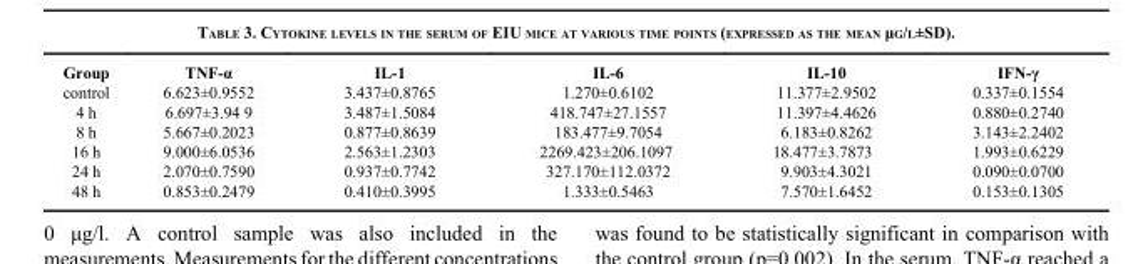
<table><thead><tr><td>Group</td><td>TNF-α</td><td>IL-1</td><td>IL-6</td><td>IL-10</td><td>IFN-γ</td></tr></thead><tbody><tr><td>control</td><td>6.623±0.9552</td><td>3.437±0.8765</td><td>1.270±0.6102</td><td>11.377±2.9502</td><td>0.337±0.1554</td></tr><tr><td>4 h</td><td>6.697±3.94 9</td><td>3.487±1.5084</td><td>418.747±27.1557</td><td>11.397±4.4626</td><td>0.880±0.2740</td></tr><tr><td>8 h</td><td>5.667±0.2023</td><td>0.877±0.8639</td><td>183.477±9.7054</td><td>6.183±0.8262</td><td>3.143±2.2402</td></tr><tr><td>16 h</td><td>9.000±6.0536</td><td>2.563±1.2303</td><td>2269.423±206.1097</td><td>18.477±3.7873</td><td>1.993±0.6229</td></tr><tr><td>24 h</td><td>2.070±0.7590</td><td>0.937±0.7742</td><td>327.170±112.0372</td><td>9.903±4.3021</td><td>0.090±0.0700</td></tr><tr><td>48 h</td><td>0.853±0.2479</td><td>0.410±0.3995</td><td>1.333±0.5463</td><td>7.570±1.6452</td><td>0.153±0.1305</td></tr></tbody></table>